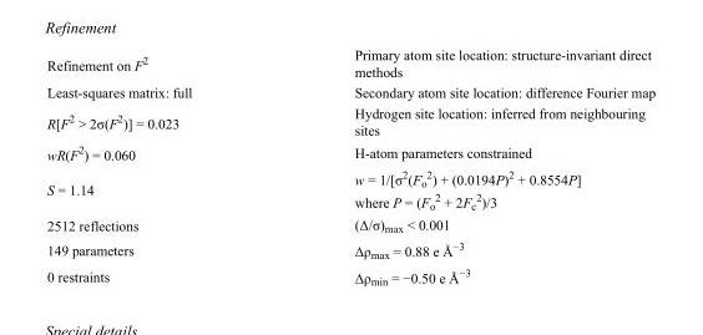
<table><tbody><tr><td>Refinement on F<sup>2</sup></td><td>Primary atom site location: structure-invariant direct methods</td></tr><tr><td>Least-squares matrix: full</td><td>Secondary atom site location: difference Fourier map</td></tr><tr><td>R[F<sup>2</sup> &gt; 2σ(F<sup>2</sup>)] = 0.023</td><td>Hydrogen site location: inferred from neighbouring sites</td></tr><tr><td>wR(F<sup>2</sup>) = 0.060</td><td>H-atom parameters constrained</td></tr><tr><td>S = 1.14</td><td>w = 1/[σ<sup>2</sup>(F<sub>o</sub> <sup>2</sup>) + (0.0194P)<sup>2</sup> + 0.8554P] where P = (F<sub>o</sub> <sup>2</sup> + 2F<sub>c</sub> <sup>2</sup>)/3</td></tr><tr><td>2512 reflections</td><td>(Δ/σ)<sub>max</sub> &lt; 0.001</td></tr><tr><td>149 parameters</td><td>Δρ<sub>max</sub> = 0.88 e Å<sup>−3</sup></td></tr><tr><td>0 restraints</td><td>Δρ<sub>min</sub> = −0.50 e Å<sup>−3</sup></td></tr></tbody></table>